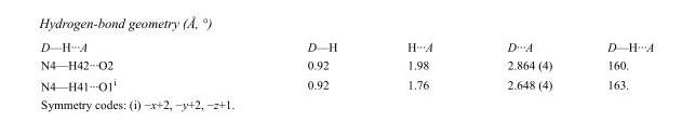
<table><tbody><tr><td>D—H···A</td><td>D—H</td><td>H···A</td><td>D···A</td><td>D—H···A</td></tr><tr><td>N4—H42···O2</td><td>0.92</td><td>1.98</td><td>2.864 (4)</td><td>160.</td></tr><tr><td>N4—H41···O1<sup>i</sup></td><td>0.92</td><td>1.76</td><td>2.648 (4)</td><td>163.</td></tr></tbody></table>